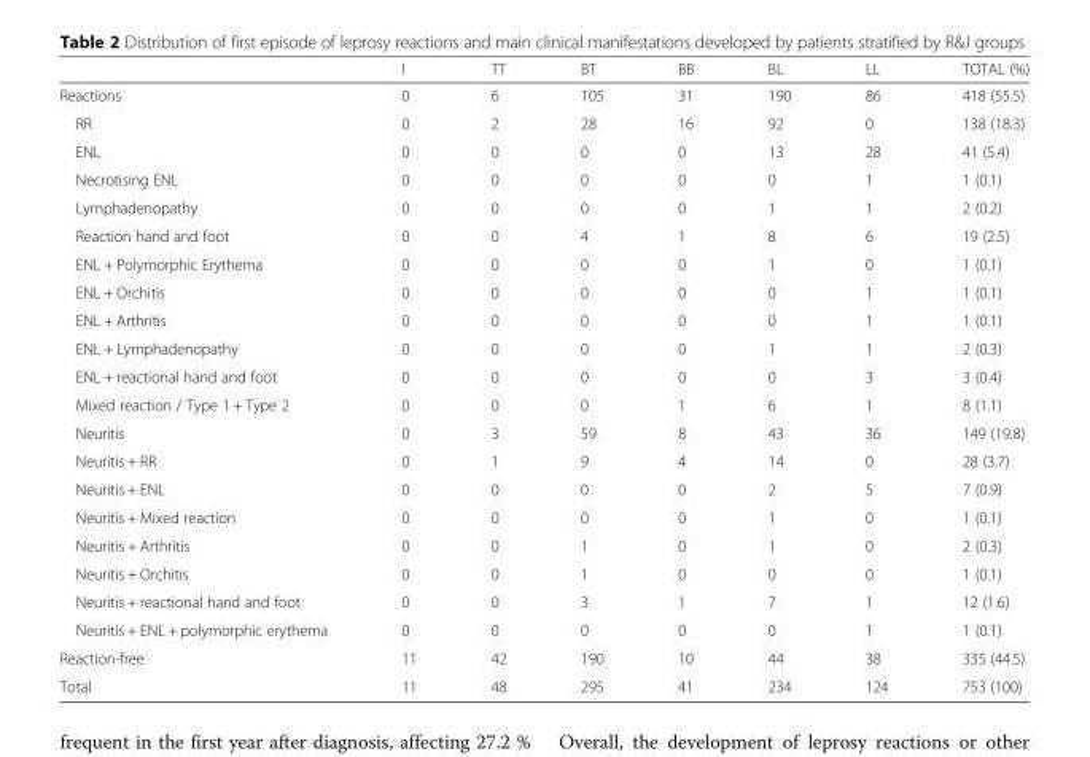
<table><thead><tr><td></td><td>I</td><td>TT</td><td>BT</td><td>BB</td><td>BL</td><td>LL</td><td>TOTAL (%)</td></tr></thead><tbody><tr><td>Reactions</td><td>0</td><td>6</td><td>105</td><td>31</td><td>190</td><td>86</td><td>418 (55.5)</td></tr><tr><td>RR</td><td>0</td><td>2</td><td>28</td><td>16</td><td>92</td><td>0</td><td>138 (18.3)</td></tr><tr><td>ENL</td><td>0</td><td>0</td><td>0</td><td>0</td><td>13</td><td>28</td><td>41 (5.4)</td></tr><tr><td>Necrotising ENL</td><td>0</td><td>0</td><td>0</td><td>0</td><td>0</td><td>1</td><td>1 (0.1)</td></tr><tr><td>Lymphadenopathy</td><td>0</td><td>0</td><td>0</td><td>0</td><td>1</td><td>1</td><td>2 (0.2)</td></tr><tr><td>Reaction hand and foot</td><td>0</td><td>0</td><td>4</td><td>1</td><td>8</td><td>6</td><td>19 (2.5)</td></tr><tr><td>ENL + Polymorphic Erythema</td><td>0</td><td>0</td><td>0</td><td>0</td><td>1</td><td>0</td><td>1 (0.1)</td></tr><tr><td>ENL + Orchitis</td><td>0</td><td>0</td><td>0</td><td>0</td><td>0</td><td>1</td><td>1 (0.1)</td></tr><tr><td>ENL + Arthritis</td><td>0</td><td>0</td><td>0</td><td>0</td><td>0</td><td>1</td><td>1 (0.1)</td></tr><tr><td>ENL + Lymphadenopathy</td><td>0</td><td>0</td><td>0</td><td>0</td><td>1</td><td>1</td><td>2 (0.3)</td></tr><tr><td>ENL + reactional hand and foot</td><td>0</td><td>0</td><td>0</td><td>0</td><td>0</td><td>3</td><td>3 (0.4)</td></tr><tr><td>Mixed reaction / Type 1 + Type 2</td><td>0</td><td>0</td><td>0</td><td>1</td><td>6</td><td>1</td><td>8 (1.1)</td></tr><tr><td>Neuritis</td><td>0</td><td>3</td><td>59</td><td>8</td><td>43</td><td>36</td><td>149 (19.8)</td></tr><tr><td>Neuritis + RR</td><td>0</td><td>1</td><td>9</td><td>4</td><td>14</td><td>0</td><td>28 (3.7)</td></tr><tr><td>Neuritis + ENL</td><td>0</td><td>0</td><td>0</td><td>0</td><td>2</td><td>5</td><td>7 (0.9)</td></tr><tr><td>Neuritis + Mixed reaction</td><td>0</td><td>0</td><td>0</td><td>0</td><td>1</td><td>0</td><td>1 (0.1)</td></tr><tr><td>Neuritis + Arthritis</td><td>0</td><td>0</td><td>1</td><td>0</td><td>1</td><td>0</td><td>2 (0.3)</td></tr><tr><td>Neuritis + Orchitis</td><td>0</td><td>0</td><td>1</td><td>0</td><td>0</td><td>0</td><td>1 (0.1)</td></tr><tr><td>Neuritis + reactional hand and foot</td><td>0</td><td>0</td><td>3</td><td>1</td><td>7</td><td>1</td><td>12 (1.6)</td></tr><tr><td>Neuritis + ENL + polymorphic erythema</td><td>0</td><td>0</td><td>0</td><td>0</td><td>0</td><td>1</td><td>1 (0.1)</td></tr><tr><td>Reaction-free</td><td>11</td><td>42</td><td>190</td><td>10</td><td>44</td><td>38</td><td>335 (44.5)</td></tr><tr><td>Total</td><td>11</td><td>48</td><td>295</td><td>41</td><td>234</td><td>124</td><td>753 (100)</td></tr></tbody></table>